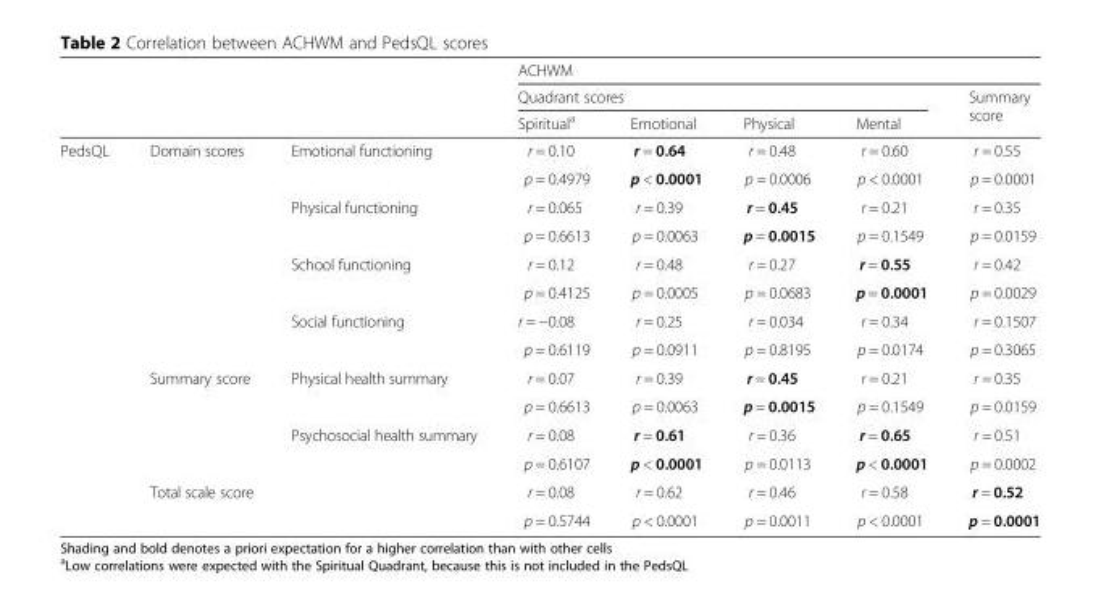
<table><thead><tr><td rowspan="3"></td><td rowspan="3"></td><td rowspan="3"></td><td colspan="5">ACHWM</td></tr><tr><td colspan="4">Quadrant scores</td><td rowspan="2">Summary score</td></tr><tr><td>Spiritual<sup>a</sup></td><td>Emotional</td><td>Physical</td><td>Mental</td></tr></thead><tbody><tr><td rowspan="14">PedsQL</td><td rowspan="8">Domain scores</td><td rowspan="2">Emotional functioning</td><td>r = 0.10</td><td>r = 0.64</td><td>r = 0.48</td><td>r = 0.60</td><td>r = 0.55</td></tr><tr><td>p = 0.4979</td><td>p &lt; 0.0001</td><td>p = 0.0006</td><td>p &lt; 0.0001</td><td>p = 0.0001</td></tr><tr><td rowspan="2">Physical functioning</td><td>r = 0.065</td><td>r = 0.39</td><td>r = 0.45</td><td>r = 0.21</td><td>r = 0.35</td></tr><tr><td>p = 0.6613</td><td>p = 0.0063</td><td>p = 0.0015</td><td>p = 0.1549</td><td>p = 0.0159</td></tr><tr><td rowspan="2">School functioning</td><td>r = 0.12</td><td>r = 0.48</td><td>r = 0.27</td><td>r = 0.55</td><td>r = 0.42</td></tr><tr><td>p = 0.4125</td><td>p = 0.0005</td><td>p = 0.0683</td><td>p = 0.0001</td><td>p = 0.0029</td></tr><tr><td rowspan="2">Social functioning</td><td>r = −0.08</td><td>r = 0.25</td><td>r = 0.034</td><td>r = 0.34</td><td>r = 0.1507</td></tr><tr><td>p = 0.6119</td><td>p = 0.0911</td><td>p = 0.8195</td><td>p = 0.0174</td><td>p = 0.3065</td></tr><tr><td rowspan="4">Summary score</td><td rowspan="2">Physical health summary</td><td>r = 0.07</td><td>r = 0.39</td><td>r = 0.45</td><td>r = 0.21</td><td>r = 0.35</td></tr><tr><td>p = 0.6613</td><td>p = 0.0063</td><td>p = 0.0015</td><td>p = 0.1549</td><td>p = 0.0159</td></tr><tr><td rowspan="2">Psychosocial health summary</td><td>r = 0.08</td><td>r = 0.61</td><td>r = 0.36</td><td>r = 0.65</td><td>r = 0.51</td></tr><tr><td>p = 0.6107</td><td>p &lt; 0.0001</td><td>p = 0.0113</td><td>p &lt; 0.0001</td><td>p = 0.0002</td></tr><tr><td rowspan="2" colspan="2">Total scale score</td><td>r = 0.08</td><td>r = 0.62</td><td>r = 0.46</td><td>r = 0.58</td><td>r = 0.52</td></tr><tr><td>p = 0.5744</td><td>p &lt; 0.0001</td><td>p = 0.0011</td><td>p &lt; 0.0001</td><td>p = 0.0001</td></tr></tbody></table>